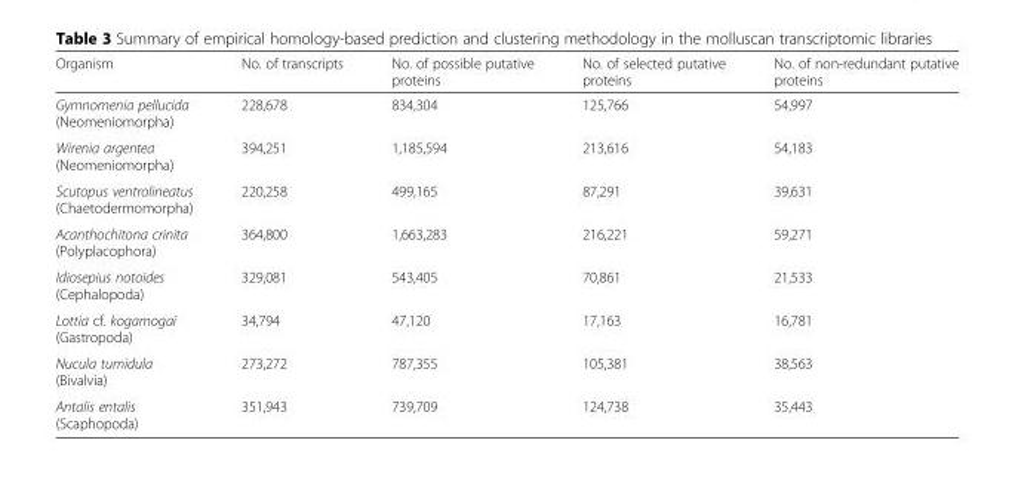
<table><thead><tr><td>Organism</td><td>No. of transcripts</td><td>No. of possible putative proteins</td><td>No. of selected putative proteins</td><td>No. of non-redundant putative proteins</td></tr></thead><tbody><tr><td>Gymnomenia pellucida (Neomeniomorpha)</td><td>228,678</td><td>834,304</td><td>125,766</td><td>54,997</td></tr><tr><td>Wirenia argentea (Neomeniomorpha)</td><td>394,251</td><td>1,185,594</td><td>213,616</td><td>54,183</td></tr><tr><td>Scutopus ventrolineatus (Chaetodermomorpha)</td><td>220,258</td><td>499,165</td><td>87,291</td><td>39,631</td></tr><tr><td>Acanthochitona crinita (Polyplacophora)</td><td>364,800</td><td>1,663,283</td><td>216,221</td><td>59,271</td></tr><tr><td>Idiosepius notoides (Cephalopoda)</td><td>329,081</td><td>543,405</td><td>70,861</td><td>21,533</td></tr><tr><td>Lottia cf. kogamogai (Gastropoda)</td><td>34,794</td><td>47,120</td><td>17,163</td><td>16,781</td></tr><tr><td>Nucula tumidula (Bivalvia)</td><td>273,272</td><td>787,355</td><td>105,381</td><td>38,563</td></tr><tr><td>Antalis entalis (Scaphopoda)</td><td>351,943</td><td>739,709</td><td>124,738</td><td>35,443</td></tr></tbody></table>